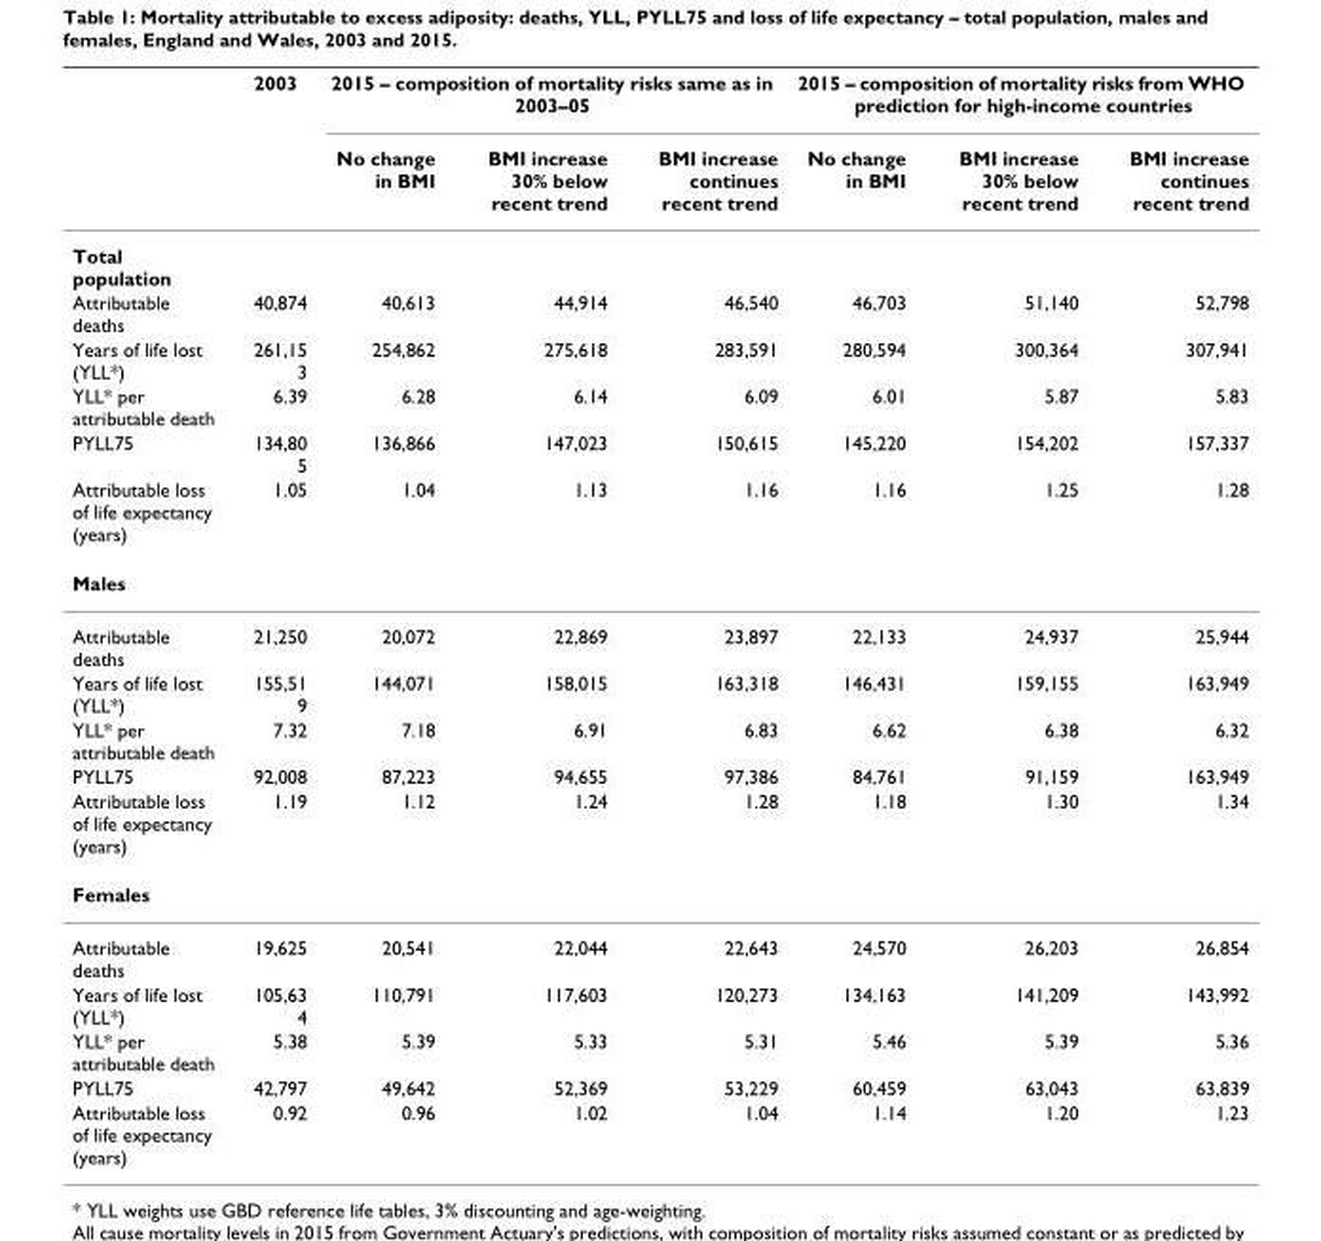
<table><thead><tr><td rowspan="2"></td><td rowspan="2">2003</td><td colspan="3">2015 – composition of mortality risks same as in 2003–05</td><td colspan="3">2015 – composition of mortality risks from WHO prediction for high-income countries</td></tr><tr><td>No change in BMI</td><td>BMI increase 30% below recent trend</td><td>BMI increase continues recent trend</td><td>No change in BMI</td><td>BMI increase 30% below recent trend</td><td>BMI increase continues recent trend</td></tr></thead><tbody><tr><td colspan="8">Total population</td></tr><tr><td>Attributable deaths</td><td>40,874</td><td>40,613</td><td>44,914</td><td>46,540</td><td>46,703</td><td>51,140</td><td>52,798</td></tr><tr><td>Years of life lost (YLL*)</td><td>261,15 3</td><td>254,862</td><td>275,618</td><td>283,591</td><td>280,594</td><td>300,364</td><td>307,941</td></tr><tr><td>YLL* per attributable death</td><td>6.39</td><td>6.28</td><td>6.14</td><td>6.09</td><td>6.01</td><td>5.87</td><td>5.83</td></tr><tr><td>PYLL75</td><td>134,80 5</td><td>136,866</td><td>147,023</td><td>150,615</td><td>145,220</td><td>154,202</td><td>157,337</td></tr><tr><td>Attributable loss of life expectancy (years)</td><td>1.05</td><td>1.04</td><td>1.13</td><td>1.16</td><td>1.16</td><td>1.25</td><td>1.28</td></tr><tr><td colspan="8">Males</td></tr><tr><td>Attributable deaths</td><td>21,250</td><td>20,072</td><td>22,869</td><td>23,897</td><td>22,133</td><td>24,937</td><td>25,944</td></tr><tr><td>Years of life lost (YLL*)</td><td>155,51 9</td><td>144,071</td><td>158,015</td><td>163,318</td><td>146,431</td><td>159,155</td><td>163,949</td></tr><tr><td>YLL* per attributable death</td><td>7.32</td><td>7.18</td><td>6.91</td><td>6.83</td><td>6.62</td><td>6.38</td><td>6.32</td></tr><tr><td>PYLL75</td><td>92,008</td><td>87,223</td><td>94,655</td><td>97,386</td><td>84,761</td><td>91,159</td><td>163,949</td></tr><tr><td>Attributable loss of life expectancy (years)</td><td>1.19</td><td>1.12</td><td>1.24</td><td>1.28</td><td>1.18</td><td>1.30</td><td>1.34</td></tr><tr><td colspan="8">Females</td></tr><tr><td>Attributable deaths</td><td>19,625</td><td>20,541</td><td>22,044</td><td>22,643</td><td>24,570</td><td>26,203</td><td>26,854</td></tr><tr><td>Years of life lost (YLL*)</td><td>105,63 4</td><td>110,791</td><td>117,603</td><td>120,273</td><td>134,163</td><td>141,209</td><td>143,992</td></tr><tr><td>YLL* per attributable death</td><td>5.38</td><td>5.39</td><td>5.33</td><td>5.31</td><td>5.46</td><td>5.39</td><td>5.36</td></tr><tr><td>PYLL75</td><td>42,797</td><td>49,642</td><td>52,369</td><td>53,229</td><td>60,459</td><td>63,043</td><td>63,839</td></tr><tr><td>Attributable loss of life expectancy (years)</td><td>0.92</td><td>0.96</td><td>1.02</td><td>1.04</td><td>1.14</td><td>1.20</td><td>1.23</td></tr></tbody></table>